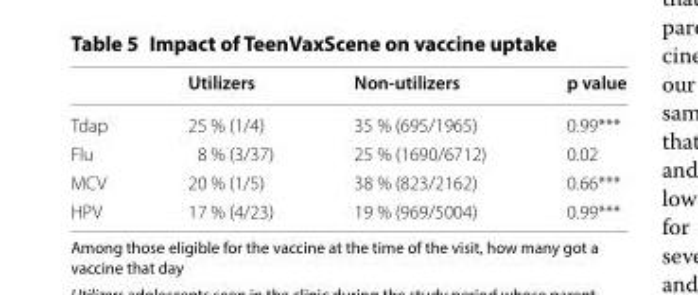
<table><thead><tr><td></td><td>Utilizers</td><td>Non‑utilizers</td><td>p value</td></tr></thead><tbody><tr><td>Tdap</td><td>25 % (1/4)</td><td>35 % (695/1965)</td><td>0.99***</td></tr><tr><td>Flu</td><td>8 % (3/37)</td><td>25 % (1690/6712)</td><td>0.02</td></tr><tr><td>MCV</td><td>20 % (1/5)</td><td>38 % (823/2162)</td><td>0.66***</td></tr><tr><td>HPV</td><td>17 % (4/23)</td><td>19 % (969/5004)</td><td>0.99***</td></tr></tbody></table>